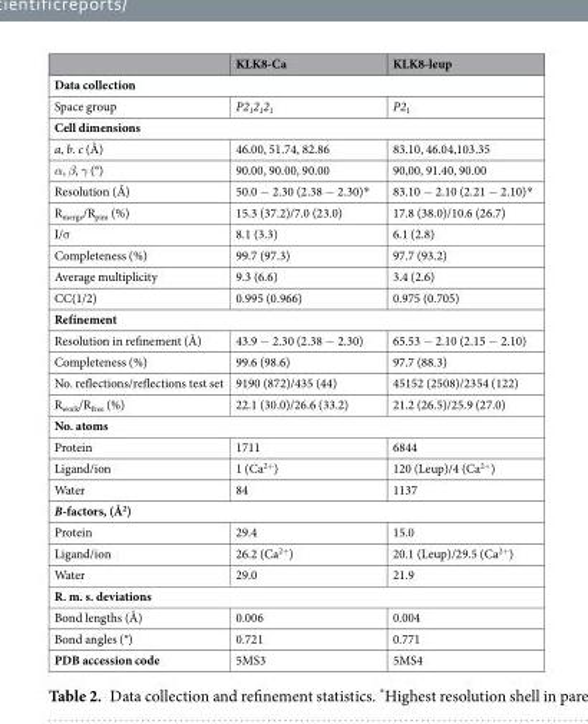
<table><thead><tr><td></td><td>KLK8-Ca</td><td>KLK8-leup</td></tr></thead><tbody><tr><td colspan="3">Data collection</td></tr><tr><td>Space group</td><td>P2<sub>1</sub>2<sub>1</sub>2<sub>1</sub></td><td>P2<sub>1</sub></td></tr><tr><td colspan="3">Cell dimensions</td></tr><tr><td>a, b. c (Å)</td><td>46.00, 51.74, 82.86</td><td>83.10, 46.04,103.35</td></tr><tr><td>α, β, γ (°)</td><td>90.00, 90.00, 90.00</td><td>90,00, 91.40, 90.00</td></tr><tr><td>Resolution (Å)</td><td>50.0 − 2.30 (2.38 − 2.30)*</td><td>83.10 − 2.10 (2.21 − 2.10)*</td></tr><tr><td>R<sub>merge</sub>/R<sub>pim</sub> (%)</td><td>15.3 (37.2)/7.0 (23.0)</td><td>17.8 (38.0)/10.6 (26.7)</td></tr><tr><td>I/σ</td><td>8.1 (3.3)</td><td>6.1 (2.8)</td></tr><tr><td>Completeness (%)</td><td>99.7 (97.3)</td><td>97.7 (93.2)</td></tr><tr><td>Average multiplicity</td><td>9.3 (6.6)</td><td>3.4 (2.6)</td></tr><tr><td>CC(1/2)</td><td>0.995 (0.966)</td><td>0.975 (0.705)</td></tr><tr><td colspan="3">Refínement</td></tr><tr><td>Resolution in refinement (Å)</td><td>43.9 − 2.30 (2.38 − 2.30)</td><td>65.53 − 2.10 (2.15 − 2.10)</td></tr><tr><td>Completeness (%)</td><td>99.6 (98.6)</td><td>97.7 (88.3)</td></tr><tr><td>No. reflections/reflections test set</td><td>9190 (872)/435 (44)</td><td>45152 (2508)/2354 (122)</td></tr><tr><td>R<sub>work</sub>/R<sub>free</sub> (%)</td><td>22.1 (30.0)/26.6 (33.2)</td><td>21.2 (26.5)/25.9 (27.0)</td></tr><tr><td colspan="3">No. atoms</td></tr><tr><td>Protein</td><td>1711</td><td>6844</td></tr><tr><td>Ligand/ion</td><td>1 (Ca<sup>2+</sup>)</td><td>120 (Leup)/4 (Ca<sup>2+</sup>)</td></tr><tr><td>Water</td><td>84</td><td>1137</td></tr><tr><td colspan="3">B-factors, (Å<sup>2</sup>)</td></tr><tr><td>Protein</td><td>29.4</td><td>15.0</td></tr><tr><td>Ligand/ion</td><td>26.2 (Ca<sup>2+</sup>)</td><td>20.1 (Leup)/29.5 (Ca<sup>2+</sup>)</td></tr><tr><td>Water</td><td>29.0</td><td>21.9</td></tr><tr><td colspan="3">R. m. s. deviations</td></tr><tr><td>Bond lengths (Å)</td><td>0.006</td><td>0.004</td></tr><tr><td>Bond angles (°)</td><td>0.721</td><td>0.771</td></tr><tr><td>PDB accession code</td><td>5MS3</td><td>5MS4</td></tr></tbody></table>